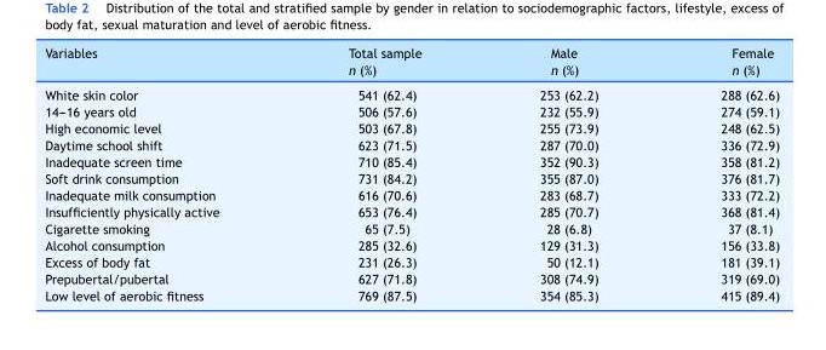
<table><thead><tr><td rowspan="2">Variables</td><td rowspan="2">Total sample n (%)</td><td rowspan="2">Male n (%)</td><td rowspan="2">Female n (%)</td></tr><tr></tr></thead><tbody><tr><td>White skin color</td><td>541 (62.4)</td><td>253 (62.2)</td><td>288 (62.6)</td></tr><tr><td>14---16 years old</td><td>506 (57.6)</td><td>232 (55.9)</td><td>274 (59.1)</td></tr><tr><td>High economic level</td><td>503 (67.8)</td><td>255 (73.9)</td><td>248 (62.5)</td></tr><tr><td>Daytime school shift</td><td>623 (71.5)</td><td>287 (70.0)</td><td>336 (72.9)</td></tr><tr><td>Inadequate screen time</td><td>710 (85.4)</td><td>352 (90.3)</td><td>358 (81.2)</td></tr><tr><td>Soft drink consumption</td><td>731 (84.2)</td><td>355 (87.0)</td><td>376 (81.7)</td></tr><tr><td>Inadequate milk consumption</td><td>616 (70.6)</td><td>283 (68.7)</td><td>333 (72.2)</td></tr><tr><td>Insufficiently physically active</td><td>653 (76.4)</td><td>285 (70.7)</td><td>368 (81.4)</td></tr><tr><td>Cigarette smoking</td><td>65 (7.5)</td><td>28 (6.8)</td><td>37 (8.1)</td></tr><tr><td>Alcohol consumption</td><td>285 (32.6)</td><td>129 (31.3)</td><td>156 (33.8)</td></tr><tr><td>Excess of body fat</td><td>231 (26.3)</td><td>50 (12.1)</td><td>181 (39.1)</td></tr><tr><td>Prepubertal/pubertal</td><td>627 (71.8)</td><td>308 (74.9)</td><td>319 (69.0)</td></tr><tr><td>Low level of aerobic fitness</td><td>769 (87.5)</td><td>354 (85.3)</td><td>415 (89.4)</td></tr></tbody></table>